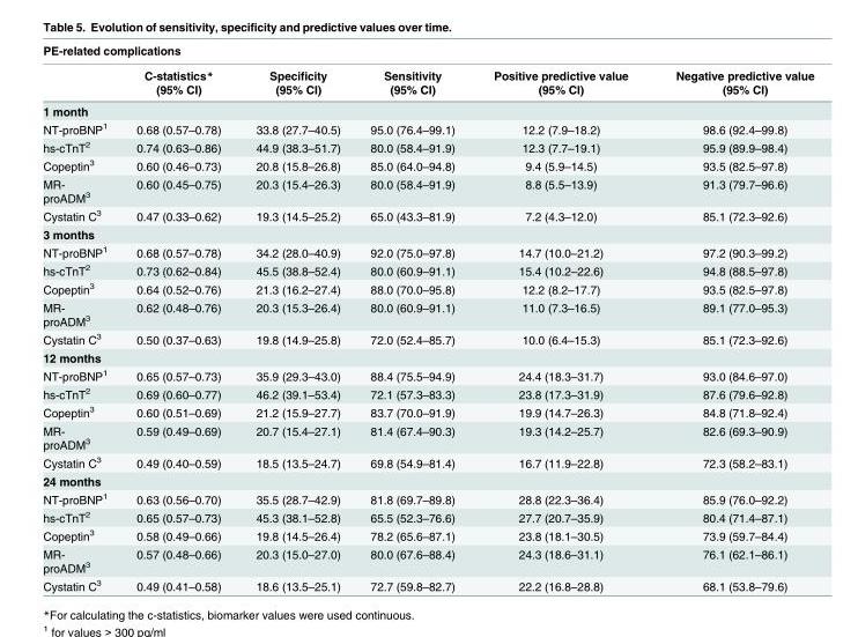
<table><thead><tr><td colspan="6">PE-related complications</td></tr><tr><td></td><td>C-statistics* (95% CI)</td><td>Specificity (95% CI)</td><td>Sensitivity (95% CI)</td><td>Positive predictive value (95% CI)</td><td>Negative predictive value (95% CI)</td></tr></thead><tbody><tr><td colspan="6">1 month</td></tr><tr><td>NT-proBNP<sup>1</sup></td><td>0.68 (0.57–0.78)</td><td>33.8 (27.7–40.5)</td><td>95.0 (76.4–99.1)</td><td>12.2 (7.9–18.2)</td><td>98.6 (92.4–99.8)</td></tr><tr><td>hs-cTnT<sup>2</sup></td><td>0.74 (0.63–0.86)</td><td>44.9 (38.3–51.7)</td><td>80.0 (58.4–91.9)</td><td>12.3 (7.7–19.1)</td><td>95.9 (89.9–98.4)</td></tr><tr><td>Copeptin<sup>3</sup></td><td>0.60 (0.46–0.73)</td><td>20.8 (15.8–26.8)</td><td>85.0 (64.0–94.8)</td><td>9.4 (5.9–14.5)</td><td>93.5 (82.5–97.8)</td></tr><tr><td>MR- proADM<sup>3</sup></td><td>0.60 (0.45–0.75)</td><td>20.3 (15.4–26.3)</td><td>80.0 (58.4–91.9)</td><td>8.8 (5.5–13.9)</td><td>91.3 (79.7–96.6)</td></tr><tr><td>Cystatin C<sup>3</sup></td><td>0.47 (0.33–0.62)</td><td>19.3 (14.5–25.2)</td><td>65.0 (43.3–81.9)</td><td>7.2 (4.3–12.0)</td><td>85.1 (72.3–92.6)</td></tr><tr><td colspan="6">3 months</td></tr><tr><td>NT-proBNP<sup>1</sup></td><td>0.68 (0.57–0.78)</td><td>34.2 (28.0–40.9)</td><td>92.0 (75.0–97.8)</td><td>14.7 (10.0–21.2)</td><td>97.2 (90.3–99.2)</td></tr><tr><td>hs-cTnT<sup>2</sup></td><td>0.73 (0.62–0.84)</td><td>45.5 (38.8–52.4)</td><td>80.0 (60.9–91.1)</td><td>15.4 (10.2–22.6)</td><td>94.8 (88.5–97.8)</td></tr><tr><td>Copeptin<sup>3</sup></td><td>0.64 (0.52–0.76)</td><td>21.3 (16.2–27.4)</td><td>88.0 (70.0–95.8)</td><td>12.2 (8.2–17.7)</td><td>93.5 (82.5–97.8)</td></tr><tr><td>MR- proADM<sup>3</sup></td><td>0.62 (0.48–0.76)</td><td>20.3 (15.3–26.4)</td><td>80.0 (60.9–91.1)</td><td>11.0 (7.3–16.5)</td><td>89.1 (77.0–95.3)</td></tr><tr><td>Cystatin C<sup>3</sup></td><td>0.50 (0.37–0.63)</td><td>19.8 (14.9–25.8)</td><td>72.0 (52.4–85.7)</td><td>10.0 (6.4–15.3)</td><td>85.1 (72.3–92.6)</td></tr><tr><td colspan="6">12 months</td></tr><tr><td>NT-proBNP<sup>1</sup></td><td>0.65 (0.57–0.73)</td><td>35.9 (29.3–43.0)</td><td>88.4 (75.5–94.9)</td><td>24.4 (18.3–31.7)</td><td>93.0 (84.6–97.0)</td></tr><tr><td>hs-cTnT<sup>2</sup></td><td>0.69 (0.60–0.77)</td><td>46.2 (39.1–53.4)</td><td>72.1 (57.3–83.3)</td><td>23.8 (17.3–31.9)</td><td>87.6 (79.6–92.8)</td></tr><tr><td>Copeptin<sup>3</sup></td><td>0.60 (0.51–0.69)</td><td>21.2 (15.9–27.7)</td><td>83.7 (70.0–91.9)</td><td>19.9 (14.7–26.3)</td><td>84.8 (71.8–92.4)</td></tr><tr><td>MR- proADM<sup>3</sup></td><td>0.59 (0.49–0.69)</td><td>20.7 (15.4–27.1)</td><td>81.4 (67.4–90.3)</td><td>19.3 (14.2–25.7)</td><td>82.6 (69.3–90.9)</td></tr><tr><td>Cystatin C<sup>3</sup></td><td>0.49 (0.40–0.59)</td><td>18.5 (13.5–24.7)</td><td>69.8 (54.9–81.4)</td><td>16.7 (11.9–22.8)</td><td>72.3 (58.2–83.1)</td></tr><tr><td colspan="6">24 months</td></tr><tr><td>NT-proBNP<sup>1</sup></td><td>0.63 (0.56–0.70)</td><td>35.5 (28.7–42.9)</td><td>81.8 (69.7–89.8)</td><td>28.8 (22.3–36.4)</td><td>85.9 (76.0–92.2)</td></tr><tr><td>hs-cTnT<sup>2</sup></td><td>0.65 (0.57–0.73)</td><td>45.3 (38.1–52.8)</td><td>65.5 (52.3–76.6)</td><td>27.7 (20.7–35.9)</td><td>80.4 (71.4–87.1)</td></tr><tr><td>Copeptin<sup>3</sup></td><td>0.58 (0.49–0.66)</td><td>19.8 (14.5–26.4)</td><td>78.2 (65.6–87.1)</td><td>23.8 (18.1–30.5)</td><td>73.9 (59.7–84.4)</td></tr><tr><td>MR- proADM<sup>3</sup></td><td>0.57 (0.48–0.66)</td><td>20.3 (15.0–27.0)</td><td>80.0 (67.6–88.4)</td><td>24.3 (18.6–31.1)</td><td>76.1 (62.1–86.1)</td></tr><tr><td>Cystatin C<sup>3</sup></td><td>0.49 (0.41–0.58)</td><td>18.6 (13.5–25.1)</td><td>72.7 (59.8–82.7)</td><td>22.2 (16.8–28.8)</td><td>68.1 (53.8–79.6)</td></tr></tbody></table>